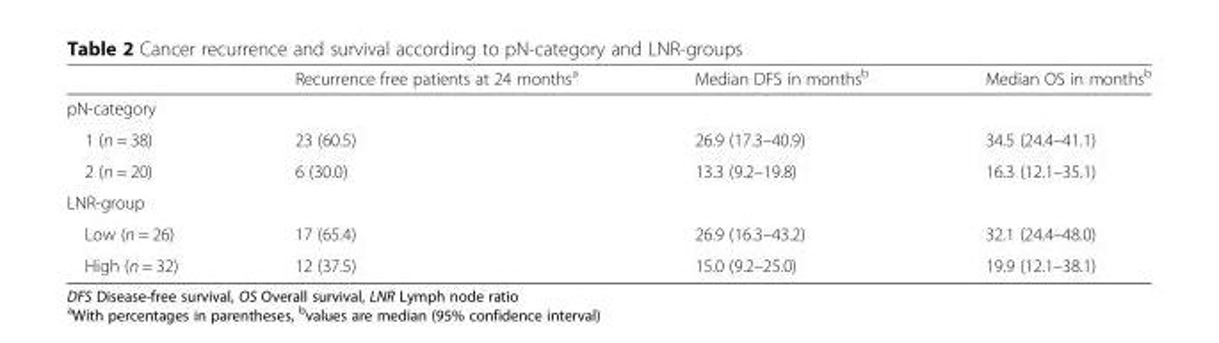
<table><thead><tr><td></td><td>Recurrence free patients at 24 months<sup>a</sup></td><td>Median DFS in months<sup>b</sup></td><td>Median OS in months<sup>b</sup></td></tr></thead><tbody><tr><td colspan="4">pN-category</td></tr><tr><td>1 (n = 38)</td><td>23 (60.5)</td><td>26.9 (17.3–40.9)</td><td>34.5 (24.4–41.1)</td></tr><tr><td>2 (n = 20)</td><td>6 (30.0)</td><td>13.3 (9.2–19.8)</td><td>16.3 (12.1–35.1)</td></tr><tr><td colspan="4">LNR-group</td></tr><tr><td>Low (n = 26)</td><td>17 (65.4)</td><td>26.9 (16.3–43.2)</td><td>32.1 (24.4–48.0)</td></tr><tr><td>High (n = 32)</td><td>12 (37.5)</td><td>15.0 (9.2–25.0)</td><td>19.9 (12.1–38.1)</td></tr></tbody></table>